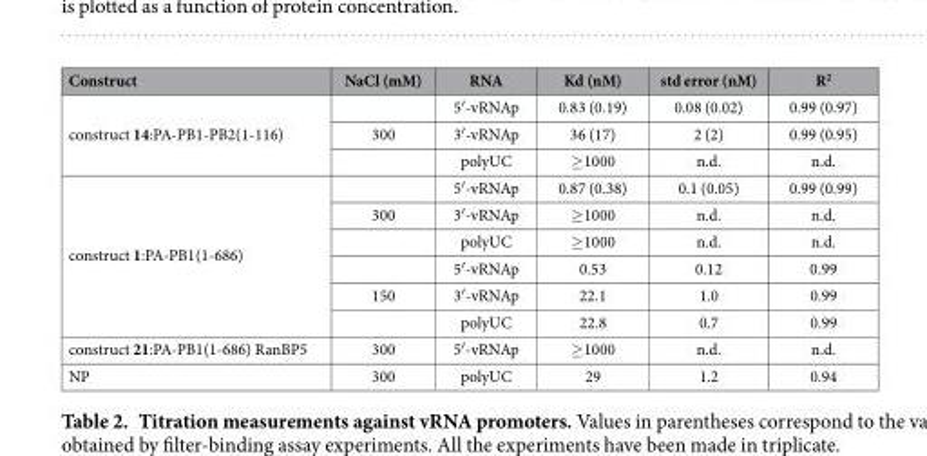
<table><thead><tr><td>Construct</td><td>NaCl (mM)</td><td>RNA</td><td>Kd (nM)</td><td>std error (nM)</td><td>R<sup>2</sup></td></tr></thead><tbody><tr><td rowspan="3">construct 14:PA-PB1-PB2(1-116)</td><td></td><td>5′-vRNAp</td><td>0.83 (0.19)</td><td>0.08 (0.02)</td><td>0.99 (0.97)</td></tr><tr><td>300</td><td>3′-vRNAp</td><td>36 (17)</td><td>2 (2)</td><td>0.99 (0.95)</td></tr><tr><td></td><td>polyUC</td><td>≥ 1000</td><td>n.d.</td><td>n.d.</td></tr><tr><td rowspan="6">construct 1:PA-PB1(1-686)</td><td></td><td>5′-vRNAp</td><td>0.87 (0.38)</td><td>0.1 (0.05)</td><td>0.99 (0.99)</td></tr><tr><td>300</td><td>3′-vRNAp</td><td>≥ 1000</td><td>n.d.</td><td>n.d.</td></tr><tr><td></td><td>polyUC</td><td>≥ 1000</td><td>n.d.</td><td>n.d.</td></tr><tr><td></td><td>5′-vRNAp</td><td>0.53</td><td>0.12</td><td>0.99</td></tr><tr><td>150</td><td>3′-vRNAp</td><td>22.1</td><td>1.0</td><td>0.99</td></tr><tr><td></td><td>polyUC</td><td>22.8</td><td>0.7</td><td>0.99</td></tr><tr><td>construct 21:PA-PB1(1-686) RanBP5</td><td>300</td><td>5′-vRNAp</td><td>≥ 1000</td><td>n.d.</td><td>n.d.</td></tr><tr><td>NP</td><td>300</td><td>polyUC</td><td>29</td><td>1.2</td><td>0.94</td></tr></tbody></table>